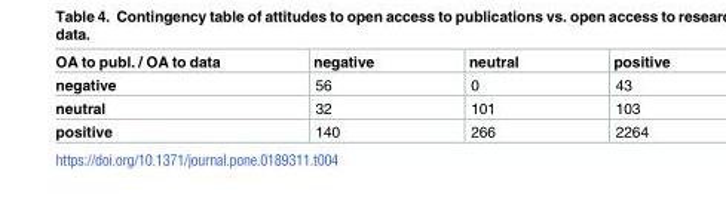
<table><thead><tr><td>OA to publ. / OA to data</td><td>negative</td><td>neutral</td><td>positive</td></tr></thead><tbody><tr><td>negative</td><td>56</td><td>0</td><td>43</td></tr><tr><td>neutral</td><td>32</td><td>101</td><td>103</td></tr><tr><td>positive</td><td>140</td><td>266</td><td>2264</td></tr></tbody></table>